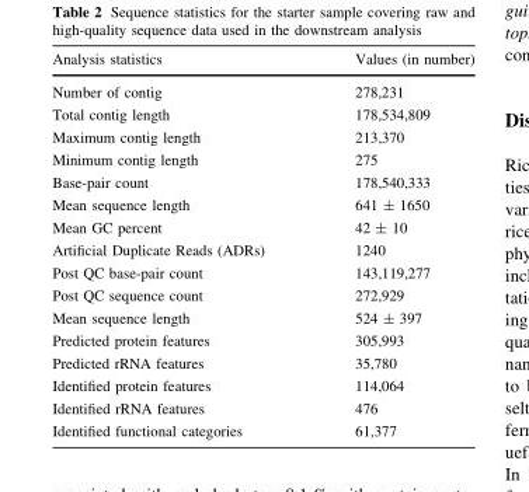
<table><thead><tr><td>Analysis statistics</td><td>Values (in number)</td></tr></thead><tbody><tr><td>Number of contig</td><td>278,231</td></tr><tr><td>Total contig length</td><td>178,534,809</td></tr><tr><td>Maximum contig length</td><td>213,370</td></tr><tr><td>Minimum contig length</td><td>275</td></tr><tr><td>Base-pair count</td><td>178,540,333</td></tr><tr><td>Mean sequence length</td><td>641 ± 1650</td></tr><tr><td>Mean GC percent</td><td>42 ± 10</td></tr><tr><td>Artificial Duplicate Reads (ADRs)</td><td>1240</td></tr><tr><td>Post QC base-pair count</td><td>143,119,277</td></tr><tr><td>Post QC sequence count</td><td>272,929</td></tr><tr><td>Mean sequence length</td><td>524 ± 397</td></tr><tr><td>Predicted protein features</td><td>305,993</td></tr><tr><td>Predicted rRNA features</td><td>35,780</td></tr><tr><td>Identified protein features</td><td>114,064</td></tr><tr><td>Identified rRNA features</td><td>476</td></tr><tr><td>Identified functional categories</td><td>61,377</td></tr></tbody></table>